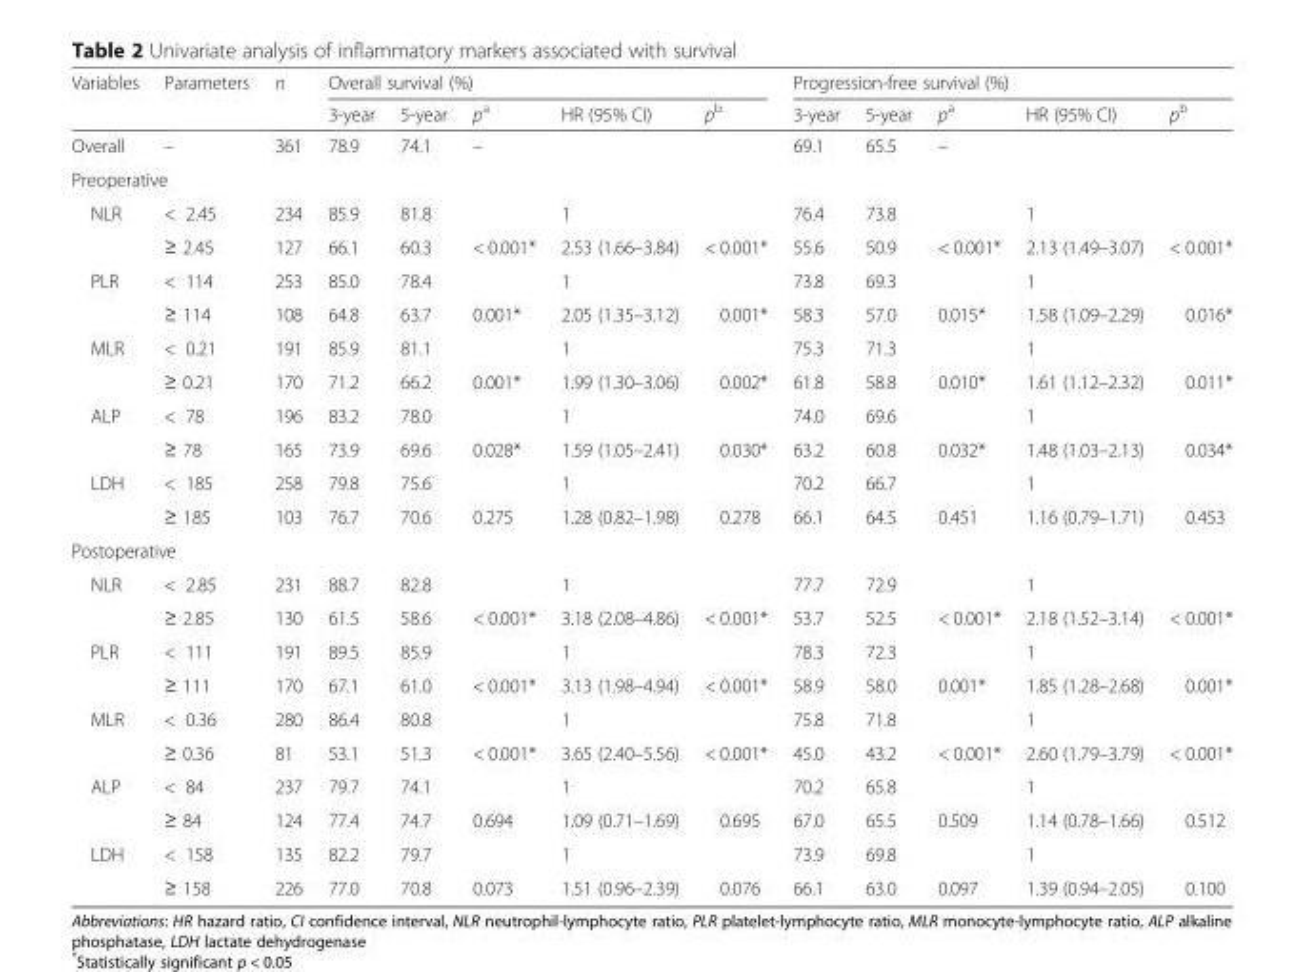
<table><thead><tr><td rowspan="2">Variables</td><td rowspan="2">Parameters</td><td rowspan="2">n</td><td colspan="5">Overall survival (%)</td><td colspan="5">Progression-free survival (%)</td></tr><tr><td>3-year</td><td>5-year</td><td>p<sup>a</sup></td><td>HR (95% CI)</td><td>p<sup>b</sup></td><td>3-year</td><td>5-year</td><td>p<sup>a</sup></td><td>HR (95% CI)</td><td>p<sup>b</sup></td></tr></thead><tbody><tr><td>Overall</td><td>–</td><td>361</td><td>78.9</td><td>74.1</td><td>–</td><td></td><td></td><td>69.1</td><td>65.5</td><td>–</td><td></td><td></td></tr><tr><td colspan="13">Preoperative</td></tr><tr><td rowspan="2">NLR</td><td>&lt; 2.45</td><td>234</td><td>85.9</td><td>81.8</td><td></td><td>1</td><td></td><td>76.4</td><td>73.8</td><td></td><td>1</td><td></td></tr><tr><td>≥ 2.45</td><td>127</td><td>66.1</td><td>60.3</td><td>&lt; 0.001*</td><td>2.53 (1.66–3.84)</td><td>&lt; 0.001*</td><td>55.6</td><td>50.9</td><td>&lt; 0.001*</td><td>2.13 (1.49–3.07)</td><td>&lt; 0.001*</td></tr><tr><td rowspan="2">PLR</td><td>&lt; 114</td><td>253</td><td>85.0</td><td>78.4</td><td></td><td>1</td><td></td><td>73.8</td><td>69.3</td><td></td><td>1</td><td></td></tr><tr><td>≥ 114</td><td>108</td><td>64.8</td><td>63.7</td><td>0.001*</td><td>2.05 (1.35–3.12)</td><td>0.001*</td><td>58.3</td><td>57.0</td><td>0.015*</td><td>1.58 (1.09–2.29)</td><td>0.016*</td></tr><tr><td rowspan="2">MLR</td><td>&lt; 0.21</td><td>191</td><td>85.9</td><td>81.1</td><td></td><td>1</td><td></td><td>75.3</td><td>71.3</td><td></td><td>1</td><td></td></tr><tr><td>≥ 0.21</td><td>170</td><td>71.2</td><td>66.2</td><td>0.001*</td><td>1.99 (1.30–3.06)</td><td>0.002*</td><td>61.8</td><td>58.8</td><td>0.010*</td><td>1.61 (1.12–2.32)</td><td>0.011*</td></tr><tr><td rowspan="2">ALP</td><td>&lt; 78</td><td>196</td><td>83.2</td><td>78.0</td><td></td><td>1</td><td></td><td>74.0</td><td>69.6</td><td></td><td>1</td><td></td></tr><tr><td>≥ 78</td><td>165</td><td>73.9</td><td>69.6</td><td>0.028*</td><td>1.59 (1.05–2.41)</td><td>0.030*</td><td>63.2</td><td>60.8</td><td>0.032*</td><td>1.48 (1.03–2.13)</td><td>0.034*</td></tr><tr><td rowspan="2">LDH</td><td>&lt; 185</td><td>258</td><td>79.8</td><td>75.6</td><td></td><td>1</td><td></td><td>70.2</td><td>66.7</td><td></td><td>1</td><td></td></tr><tr><td>≥ 185</td><td>103</td><td>76.7</td><td>70.6</td><td>0.275</td><td>1.28 (0.82–1.98)</td><td>0.278</td><td>66.1</td><td>64.5</td><td>0.451</td><td>1.16 (0.79–1.71)</td><td>0.453</td></tr><tr><td colspan="13">Postoperative</td></tr><tr><td rowspan="2">NLR</td><td>&lt; 2.85</td><td>231</td><td>88.7</td><td>82.8</td><td></td><td>1</td><td></td><td>77.7</td><td>72.9</td><td></td><td>1</td><td></td></tr><tr><td>≥ 2.85</td><td>130</td><td>61.5</td><td>58.6</td><td>&lt; 0.001*</td><td>3.18 (2.08–4.86)</td><td>&lt; 0.001*</td><td>53.7</td><td>52.5</td><td>&lt; 0.001*</td><td>2.18 (1.52–3.14)</td><td>&lt; 0.001*</td></tr><tr><td rowspan="2">PLR</td><td>&lt; 111</td><td>191</td><td>89.5</td><td>85.9</td><td></td><td>1</td><td></td><td>78.3</td><td>72.3</td><td></td><td>1</td><td></td></tr><tr><td>≥ 111</td><td>170</td><td>67.1</td><td>61.0</td><td>&lt; 0.001*</td><td>3.13 (1.98–4.94)</td><td>&lt; 0.001*</td><td>58.9</td><td>58.0</td><td>0.001*</td><td>1.85 (1.28–2.68)</td><td>0.001*</td></tr><tr><td rowspan="2">MLR</td><td>&lt; 0.36</td><td>280</td><td>86.4</td><td>80.8</td><td></td><td>1</td><td></td><td>75.8</td><td>71.8</td><td></td><td>1</td><td></td></tr><tr><td>≥ 0.36</td><td>81</td><td>53.1</td><td>51.3</td><td>&lt; 0.001*</td><td>3.65 (2.40–5.56)</td><td>&lt; 0.001*</td><td>45.0</td><td>43.2</td><td>&lt; 0.001*</td><td>2.60 (1.79–3.79)</td><td>&lt; 0.001*</td></tr><tr><td rowspan="2">ALP</td><td>&lt; 84</td><td>237</td><td>79.7</td><td>74.1</td><td></td><td>1</td><td></td><td>70.2</td><td>65.8</td><td></td><td>1</td><td></td></tr><tr><td>≥ 84</td><td>124</td><td>77.4</td><td>74.7</td><td>0.694</td><td>1.09 (0.71–1.69)</td><td>0.695</td><td>67.0</td><td>65.5</td><td>0.509</td><td>1.14 (0.78–1.66)</td><td>0.512</td></tr><tr><td rowspan="2">LDH</td><td>&lt; 158</td><td>135</td><td>82.2</td><td>79.7</td><td></td><td>1</td><td></td><td>73.9</td><td>69.8</td><td></td><td>1</td><td></td></tr><tr><td>≥ 158</td><td>226</td><td>77.0</td><td>70.8</td><td>0.073</td><td>1.51 (0.96–2.39)</td><td>0.076</td><td>66.1</td><td>63.0</td><td>0.097</td><td>1.39 (0.94–2.05)</td><td>0.100</td></tr></tbody></table>